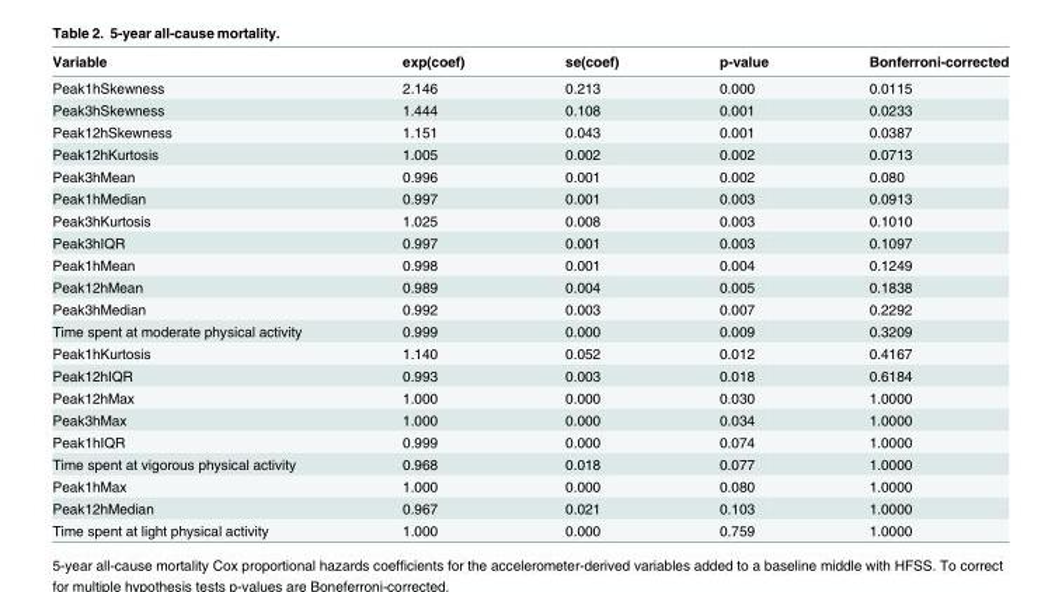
<table><thead><tr><td>Variable</td><td>exp(coef)</td><td>se(coef)</td><td>p-value</td><td>Bonferroni-corrected</td></tr></thead><tbody><tr><td>Peak1hSkewness</td><td>2.146</td><td>0.213</td><td>0.000</td><td>0.0115</td></tr><tr><td>Peak3hSkewness</td><td>1.444</td><td>0.108</td><td>0.001</td><td>0.0233</td></tr><tr><td>Peak12hSkewness</td><td>1.151</td><td>0.043</td><td>0.001</td><td>0.0387</td></tr><tr><td>Peak12hKurtosis</td><td>1.005</td><td>0.002</td><td>0.002</td><td>0.0713</td></tr><tr><td>Peak3hMean</td><td>0.996</td><td>0.001</td><td>0.002</td><td>0.080</td></tr><tr><td>Peak1hMedian</td><td>0.997</td><td>0.001</td><td>0.003</td><td>0.0913</td></tr><tr><td>Peak3hKurtosis</td><td>1.025</td><td>0.008</td><td>0.003</td><td>0.1010</td></tr><tr><td>Peak3hIQR</td><td>0.997</td><td>0.001</td><td>0.003</td><td>0.1097</td></tr><tr><td>Peak1hMean</td><td>0.998</td><td>0.001</td><td>0.004</td><td>0.1249</td></tr><tr><td>Peak12hMean</td><td>0.989</td><td>0.004</td><td>0.005</td><td>0.1838</td></tr><tr><td>Peak3hMedian</td><td>0.992</td><td>0.003</td><td>0.007</td><td>0.2292</td></tr><tr><td>Time spent at moderate physical activity</td><td>0.999</td><td>0.000</td><td>0.009</td><td>0.3209</td></tr><tr><td>Peak1hKurtosis</td><td>1.140</td><td>0.052</td><td>0.012</td><td>0.4167</td></tr><tr><td>Peak12hIQR</td><td>0.993</td><td>0.003</td><td>0.018</td><td>0.6184</td></tr><tr><td>Peak12hMax</td><td>1.000</td><td>0.000</td><td>0.030</td><td>1.0000</td></tr><tr><td>Peak3hMax</td><td>1.000</td><td>0.000</td><td>0.034</td><td>1.0000</td></tr><tr><td>Peak1hIQR</td><td>0.999</td><td>0.000</td><td>0.074</td><td>1.0000</td></tr><tr><td>Time spent at vigorous physical activity</td><td>0.968</td><td>0.018</td><td>0.077</td><td>1.0000</td></tr><tr><td>Peak1hMax</td><td>1.000</td><td>0.000</td><td>0.080</td><td>1.0000</td></tr><tr><td>Peak12hMedian</td><td>0.967</td><td>0.021</td><td>0.103</td><td>1.0000</td></tr><tr><td>Time spent at light physical activity</td><td>1.000</td><td>0.000</td><td>0.759</td><td>1.0000</td></tr></tbody></table>